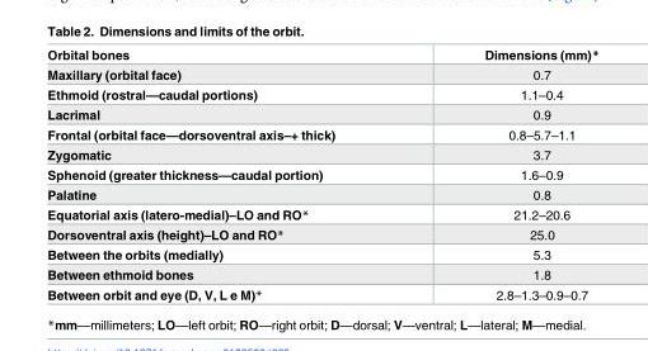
<table><thead><tr><td>Orbital bones</td><td>Dimensions (mm)*</td></tr></thead><tbody><tr><td>Maxillary (orbital face)</td><td>0.7</td></tr><tr><td>Ethmoid (rostral—caudal portions)</td><td>1.1–0.4</td></tr><tr><td>Lacrimal</td><td>0.9</td></tr><tr><td>Frontal (orbital face—dorsoventral axis–+ thick)</td><td>0.8–5.7–1.1</td></tr><tr><td>Zygomatic</td><td>3.7</td></tr><tr><td>Sphenoid (greater thickness—caudal portion)</td><td>1.6–0.9</td></tr><tr><td>Palatine</td><td>0.8</td></tr><tr><td>Equatorial axis (latero-medial)–LO and RO*</td><td>21.2–20.6</td></tr><tr><td>Dorsoventral axis (height)–LO and RO*</td><td>25.0</td></tr><tr><td>Between the orbits (medially)</td><td>5.3</td></tr><tr><td>Between ethmoid bones</td><td>1.8</td></tr><tr><td>Between orbit and eye (D, V, L e M)*</td><td>2.8–1.3–0.9–0.7</td></tr></tbody></table>